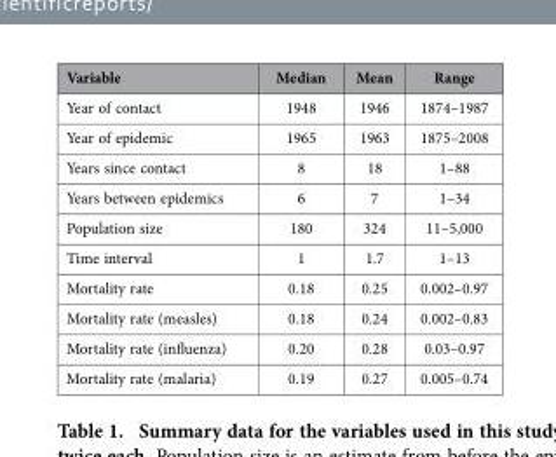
<table><thead><tr><td>Variable</td><td>Median</td><td>Mean</td><td>Range</td></tr></thead><tbody><tr><td>Year of contact</td><td>1948</td><td>1946</td><td>1874–1987</td></tr><tr><td>Year of epidemic</td><td>1965</td><td>1963</td><td>1875–2008</td></tr><tr><td>Years since contact</td><td>8</td><td>18</td><td>1–88</td></tr><tr><td>Years between epidemics</td><td>6</td><td>7</td><td>1–34</td></tr><tr><td>Population size</td><td>180</td><td>324</td><td>11–5,000</td></tr><tr><td>Time interval</td><td>1</td><td>1.7</td><td>1–13</td></tr><tr><td>Mortality rate</td><td>0.18</td><td>0.25</td><td>0.002–0.97</td></tr><tr><td>Mortality rate (measles)</td><td>0.18</td><td>0.24</td><td>0.002–0.83</td></tr><tr><td>Mortality rate (influenza)</td><td>0.20</td><td>0.28</td><td>0.03–0.97</td></tr><tr><td>Mortality rate (malaria)</td><td>0.19</td><td>0.27</td><td>0.005–0.74</td></tr></tbody></table>